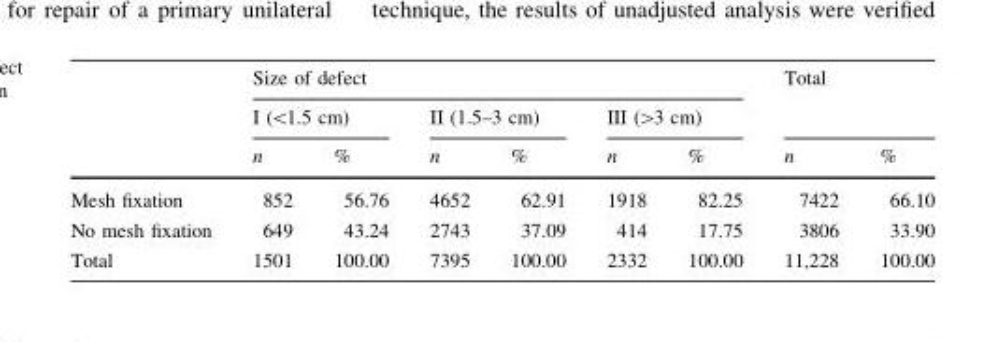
<table><thead><tr><td rowspan="3"></td><td colspan="6">Size of defect</td><td rowspan="2" colspan="2">Total</td></tr><tr><td colspan="2">I (&lt;1.5 cm)</td><td colspan="2">II (1.5–3 cm)</td><td colspan="2">III (&gt;3 cm)</td></tr><tr><td>n</td><td>%</td><td>n</td><td>%</td><td>n</td><td>%</td><td>n</td><td>%</td></tr></thead><tbody><tr><td>Mesh fixation</td><td>852</td><td>56.76</td><td>4652</td><td>62.91</td><td>1918</td><td>82.25</td><td>7422</td><td>66.10</td></tr><tr><td>No mesh fixation</td><td>649</td><td>43.24</td><td>2743</td><td>37.09</td><td>414</td><td>17.75</td><td>3806</td><td>33.90</td></tr><tr><td>Total</td><td>1501</td><td>100.00</td><td>7395</td><td>100.00</td><td>2332</td><td>100.00</td><td>11,228</td><td>100.00</td></tr></tbody></table>